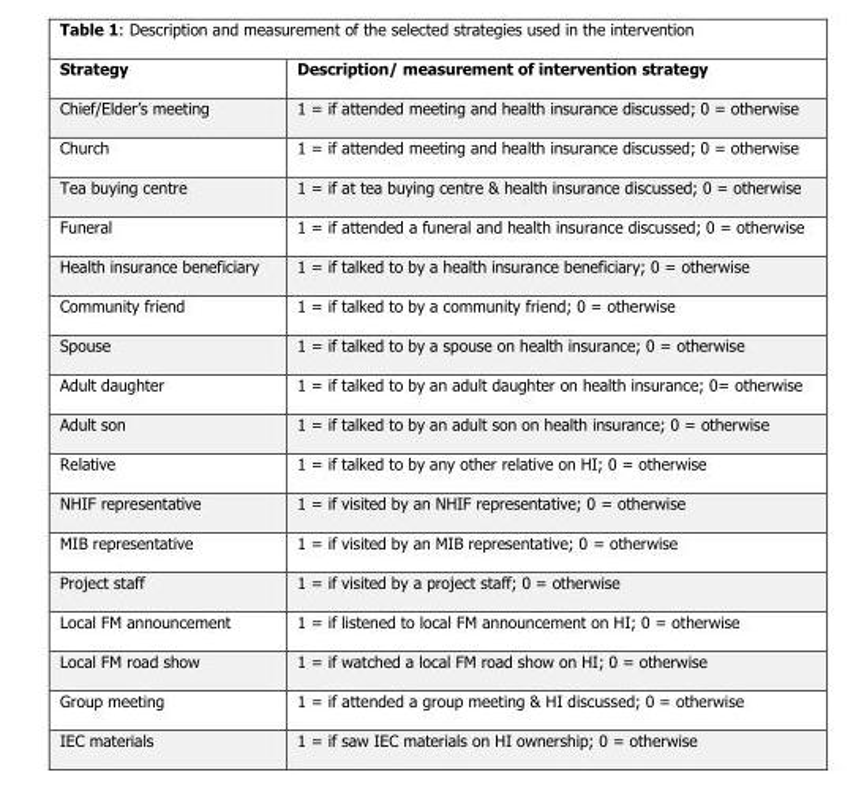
<table><thead><tr><td>Strategy</td><td>Description/ measurement of intervention strategy</td></tr></thead><tbody><tr><td>Chief/Elder’s meeting</td><td>1 = if attended meeting and health insurance discussed; 0 = otherwise</td></tr><tr><td>Church</td><td>1 = if attended meeting and health insurance discussed; 0 = otherwise</td></tr><tr><td>Tea buying centre</td><td>1 = if at tea buying centre &amp; health insurance discussed; 0 = otherwise</td></tr><tr><td>Funeral</td><td>1 = if attended a funeral and health insurance discussed; 0 = otherwise</td></tr><tr><td>Health insurance beneficiary</td><td>1 = if talked to by a health insurance beneficiary; 0 = otherwise</td></tr><tr><td>Community friend</td><td>1 = if talked to by a community friend; 0 = otherwise</td></tr><tr><td>Spouse</td><td>1 = if talked to by a spouse on health insurance; 0 = otherwise</td></tr><tr><td>Adult daughter</td><td>1 = if talked to by an adult daughter on health insurance; 0= otherwise</td></tr><tr><td>Adult son</td><td>1 = if talked to by an adult son on health insurance; 0 = otherwise</td></tr><tr><td>Relative</td><td>1 = if talked to by any other relative on HI; 0 = otherwise</td></tr><tr><td>NHIF representative</td><td>1 = if visited by an NHIF representative; 0 = otherwise</td></tr><tr><td>MIB representative</td><td>1 = if visited by an MIB representative; 0 = otherwise</td></tr><tr><td>Project staff</td><td>1 = if visited by a project staff; 0 = otherwise</td></tr><tr><td>Local FM announcement</td><td>1 = if listened to local FM announcement on HI; 0 = otherwise</td></tr><tr><td>Local FM road show</td><td>1 = if watched a local FM road show on HI; 0 = otherwise</td></tr><tr><td>Group meeting</td><td>1 = if attended a group meeting &amp; HI discussed; 0 = otherwise</td></tr><tr><td>IEC materials</td><td>1 = if saw IEC materials on HI ownership; 0 = otherwise</td></tr></tbody></table>